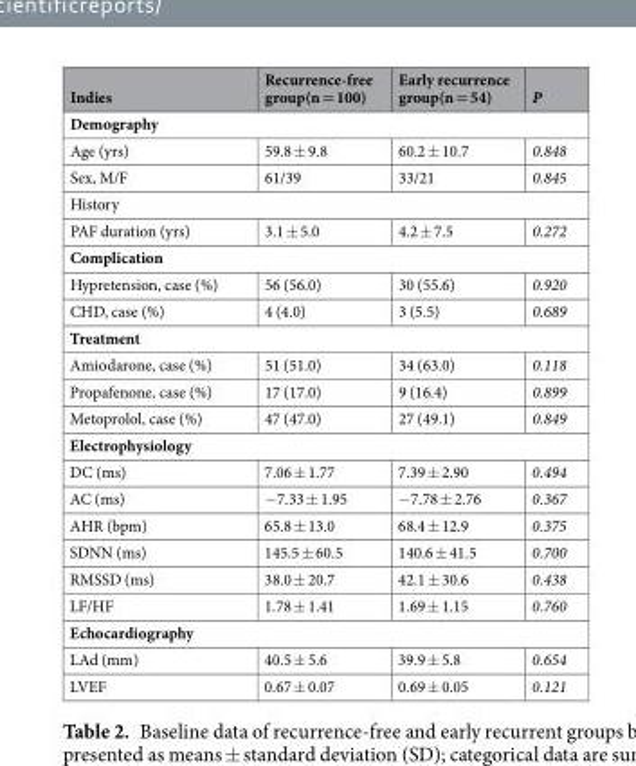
<table><thead><tr><td>Indies</td><td>Recurrence-free group(n = 100)</td><td>Early recurrence group(n = 54)</td><td>P</td></tr></thead><tbody><tr><td colspan="4">Demography</td></tr><tr><td>Age (yrs)</td><td>59.8 ± 9.8</td><td>60.2 ± 10.7</td><td>0.848</td></tr><tr><td>Sex, M/F</td><td>61/39</td><td>33/21</td><td>0.845</td></tr><tr><td colspan="4">History</td></tr><tr><td>PAF duration (yrs)</td><td>3.1 ± 5.0</td><td>4.2 ± 7.5</td><td>0.272</td></tr><tr><td colspan="4">Complication</td></tr><tr><td>Hypretension, case (%)</td><td>56 (56.0)</td><td>30 (55.6)</td><td>0.920</td></tr><tr><td>CHD, case (%)</td><td>4 (4.0)</td><td>3 (5.5)</td><td>0.689</td></tr><tr><td colspan="4">Treatment</td></tr><tr><td>Amiodarone, case (%)</td><td>51 (51.0)</td><td>34 (63.0)</td><td>0.118</td></tr><tr><td>Propafenone, case (%)</td><td>17 (17.0)</td><td>9 (16.4)</td><td>0.899</td></tr><tr><td>Metoprolol, case (%)</td><td>47 (47.0)</td><td>27 (49.1)</td><td>0.849</td></tr><tr><td colspan="4">Electrophysiology</td></tr><tr><td>DC (ms)</td><td>7.06 ± 1.77</td><td>7.39 ± 2.90</td><td>0.494</td></tr><tr><td>AC (ms)</td><td>−7.33 ± 1.95</td><td>−7.78 ± 2.76</td><td>0.367</td></tr><tr><td>AHR (bpm)</td><td>65.8 ± 13.0</td><td>68.4 ± 12.9</td><td>0.375</td></tr><tr><td>SDNN (ms)</td><td>145.5 ± 60.5</td><td>140.6 ± 41.5</td><td>0.700</td></tr><tr><td>RMSSD (ms)</td><td>38.0 ± 20.7</td><td>42.1 ± 30.6</td><td>0.438</td></tr><tr><td>LF/HF</td><td>1.78 ± 1.41</td><td>1.69 ± 1.15</td><td>0.760</td></tr><tr><td colspan="4">Echocardiography</td></tr><tr><td>LAd (mm)</td><td>40.5 ± 5.6</td><td>39.9 ± 5.8</td><td>0.654</td></tr><tr><td>LVEF</td><td>0.67 ± 0.07</td><td>0.69 ± 0.05</td><td>0.121</td></tr></tbody></table>